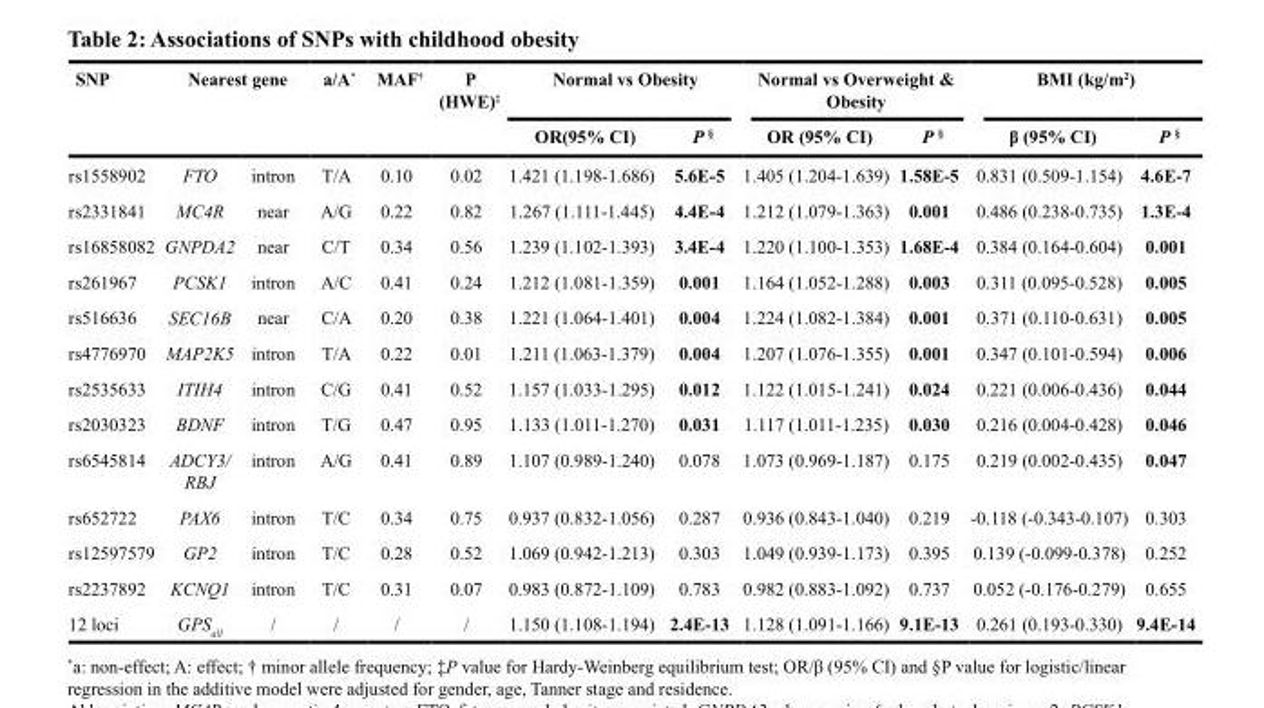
<table><thead><tr><td rowspan="3">SNP rs1558902</td><td rowspan="2" colspan="2">Nearest gene</td><td rowspan="3">a/A* T/A</td><td rowspan="3">MAF<sup>†</sup> 0.10</td><td rowspan="3">P (HWE)<sup>‡</sup> 0.02</td><td colspan="2">Normal vs Obesity</td><td colspan="2">Normal vs Overweight &amp; Obesity</td><td colspan="2">BMI (kg/m<sup>2</sup>)</td></tr><tr><td rowspan="2">OR(95% CI) 1.421 (1.198-1.686)</td><td rowspan="2">P <sup>§</sup> 5.6E-5</td><td rowspan="2">OR (95% CI) 1.405 (1.204-1.639)</td><td rowspan="2">P <sup>§</sup> 1.58E-5</td><td rowspan="2">β (95% CI) 0.831 (0.509-1.154)</td><td rowspan="2">P <sup>§</sup> 4.6E-7</td></tr><tr><td>FTO</td><td>intron</td></tr></thead><tbody><tr><td>rs2331841</td><td>MC4R</td><td>near</td><td>A/G</td><td>0.22</td><td>0.82</td><td>1.267 (1.111-1.445)</td><td>4.4E-4</td><td>1.212 (1.079-1.363)</td><td>0.001</td><td>0.486 (0.238-0.735)</td><td>1.3E-4</td></tr><tr><td>rs16858082</td><td>GNPDA2</td><td>near</td><td>C/T</td><td>0.34</td><td>0.56</td><td>1.239 (1.102-1.393)</td><td>3.4E-4</td><td>1.220 (1.100-1.353)</td><td>1.68E-4</td><td>0.384 (0.164-0.604)</td><td>0.001</td></tr><tr><td>rs261967</td><td>PCSK1</td><td>intron</td><td>A/C</td><td>0.41</td><td>0.24</td><td>1.212 (1.081-1.359)</td><td>0.001</td><td>1.164 (1.052-1.288)</td><td>0.003</td><td>0.311 (0.095-0.528)</td><td>0.005</td></tr><tr><td>rs516636</td><td>SEC16B</td><td>near</td><td>C/A</td><td>0.20</td><td>0.38</td><td>1.221 (1.064-1.401)</td><td>0.004</td><td>1.224 (1.082-1.384)</td><td>0.001</td><td>0.371 (0.110-0.631)</td><td>0.005</td></tr><tr><td>rs4776970</td><td>MAP2K5</td><td>intron</td><td>T/A</td><td>0.22</td><td>0.01</td><td>1.211 (1.063-1.379)</td><td>0.004</td><td>1.207 (1.076-1.355)</td><td>0.001</td><td>0.347 (0.101-0.594)</td><td>0.006</td></tr><tr><td>rs2535633</td><td>ITIH4</td><td>intron</td><td>C/G</td><td>0.41</td><td>0.52</td><td>1.157 (1.033-1.295)</td><td>0.012</td><td>1.122 (1.015-1.241)</td><td>0.024</td><td>0.221 (0.006-0.436)</td><td>0.044</td></tr><tr><td>rs2030323</td><td>BDNF</td><td>intron</td><td>T/G</td><td>0.47</td><td>0.95</td><td>1.133 (1.011-1.270)</td><td>0.031</td><td>1.117 (1.011-1.235)</td><td>0.030</td><td>0.216 (0.004-0.428)</td><td>0.046</td></tr><tr><td>rs6545814</td><td>ADCY3/ RBJ</td><td>intron</td><td>A/G</td><td>0.41</td><td>0.89</td><td>1.107 (0.989-1.240)</td><td>0.078</td><td>1.073 (0.969-1.187)</td><td>0.175</td><td>0.219 (0.002-0.435)</td><td>0.047</td></tr><tr><td>rs652722</td><td>PAX6</td><td>intron</td><td>T/C</td><td>0.34</td><td>0.75</td><td>0.937 (0.832-1.056)</td><td>0.287</td><td>0.936 (0.843-1.040)</td><td>0.219</td><td>-0.118 (-0.343-0.107)</td><td>0.303</td></tr><tr><td>rs12597579</td><td>GP2</td><td>intron</td><td>T/C</td><td>0.28</td><td>0.52</td><td>1.069 (0.942-1.213)</td><td>0.303</td><td>1.049 (0.939-1.173)</td><td>0.395</td><td>0.139 (-0.099-0.378)</td><td>0.252</td></tr><tr><td>rs2237892</td><td>KCNQ1</td><td>intron</td><td>T/C</td><td>0.31</td><td>0.07</td><td>0.983 (0.872-1.109)</td><td>0.783</td><td>0.982 (0.883-1.092)</td><td>0.737</td><td>0.052 (-0.176-0.279)</td><td>0.655</td></tr><tr><td>12 loci</td><td>GPS<sub>all</sub></td><td>/</td><td>/</td><td>/</td><td>/</td><td>1.150 (1.108-1.194)</td><td>2.4E-13</td><td>1.128 (1.091-1.166)</td><td>9.1E-13</td><td>0.261 (0.193-0.330)</td><td>9.4E-14</td></tr></tbody></table>